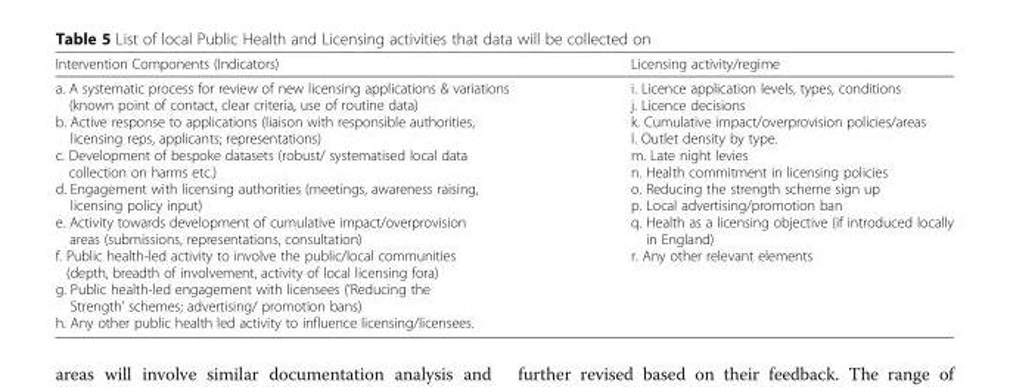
<table><thead><tr><td>Intervention Components (Indicators)</td><td>Licensing activity/regime</td></tr></thead><tbody><tr><td>a. A systematic process for review of new licensing applications &amp; variations (known point of contact, clear criteria, use of routine data) b. Active response to applications (liaison with responsible authorities, licensing reps, applicants; representations) c. Development of bespoke datasets (robust/ systematised local data collection on harms etc.) d. Engagement with licensing authorities (meetings, awareness raising, licensing policy input) e. Activity towards development of cumulative impact/overprovision areas (submissions, representations, consultation) f. Public health-led activity to involve the public/local communities (depth, breadth of involvement, activity of local licensing fora) g. Public health-led engagement with licensees (‘Reducing the Strength’ schemes; advertising/ promotion bans) h. Any other public health led activity to influence licensing/licensees.</td><td>i. Licence application levels, types, conditions j. Licence decisions k. Cumulative impact/overprovision policies/areas l. Outlet density by type. m. Late night levies n. Health commitment in licensing policies o. Reducing the strength scheme sign up p. Local advertising/promotion ban q. Health as a licensing objective (if introduced locally in England) r. Any other relevant elements</td></tr></tbody></table>